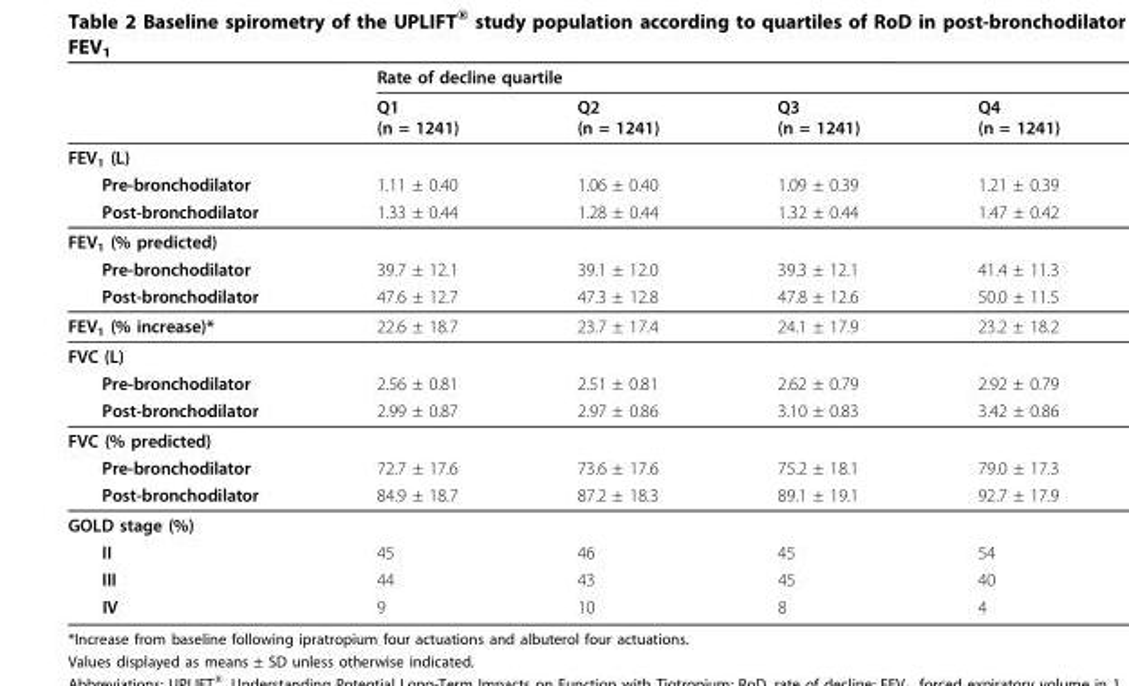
<table><thead><tr><td rowspan="2"></td><td colspan="4">Rate of decline quartile</td></tr><tr><td>Q1 (n = 1241)</td><td>Q2 (n = 1241)</td><td>Q3 (n = 1241)</td><td>Q4 (n = 1241)</td></tr></thead><tbody><tr><td colspan="5">FEV<sub>1</sub> (L)</td></tr><tr><td>Pre-bronchodilator</td><td>1.11 ± 0.40</td><td>1.06 ± 0.40</td><td>1.09 ± 0.39</td><td>1.21 ± 0.39</td></tr><tr><td>Post-bronchodilator</td><td>1.33 ± 0.44</td><td>1.28 ± 0.44</td><td>1.32 ± 0.44</td><td>1.47 ± 0.42</td></tr><tr><td colspan="5">FEV<sub>1</sub> (% predicted)</td></tr><tr><td>Pre-bronchodilator</td><td>39.7 ± 12.1</td><td>39.1 ± 12.0</td><td>39.3 ± 12.1</td><td>41.4 ± 11.3</td></tr><tr><td>Post-bronchodilator</td><td>47.6 ± 12.7</td><td>47.3 ± 12.8</td><td>47.8 ± 12.6</td><td>50.0 ± 11.5</td></tr><tr><td>FEV<sub>1</sub> (% increase)*</td><td>22.6 ± 18.7</td><td>23.7 ± 17.4</td><td>24.1 ± 17.9</td><td>23.2 ± 18.2</td></tr><tr><td colspan="5">FVC (L)</td></tr><tr><td>Pre-bronchodilator</td><td>2.56 ± 0.81</td><td>2.51 ± 0.81</td><td>2.62 ± 0.79</td><td>2.92 ± 0.79</td></tr><tr><td>Post-bronchodilator</td><td>2.99 ± 0.87</td><td>2.97 ± 0.86</td><td>3.10 ± 0.83</td><td>3.42 ± 0.86</td></tr><tr><td colspan="5">FVC (% predicted)</td></tr><tr><td>Pre-bronchodilator</td><td>72.7 ± 17.6</td><td>73.6 ± 17.6</td><td>75.2 ± 18.1</td><td>79.0 ± 17.3</td></tr><tr><td>Post-bronchodilator</td><td>84.9 ± 18.7</td><td>87.2 ± 18.3</td><td>89.1 ± 19.1</td><td>92.7 ± 17.9</td></tr><tr><td colspan="5">GOLD stage (%)</td></tr><tr><td>II</td><td>45</td><td>46</td><td>45</td><td>54</td></tr><tr><td>III</td><td>44</td><td>43</td><td>45</td><td>40</td></tr><tr><td>IV</td><td>9</td><td>10</td><td>8</td><td>4</td></tr></tbody></table>